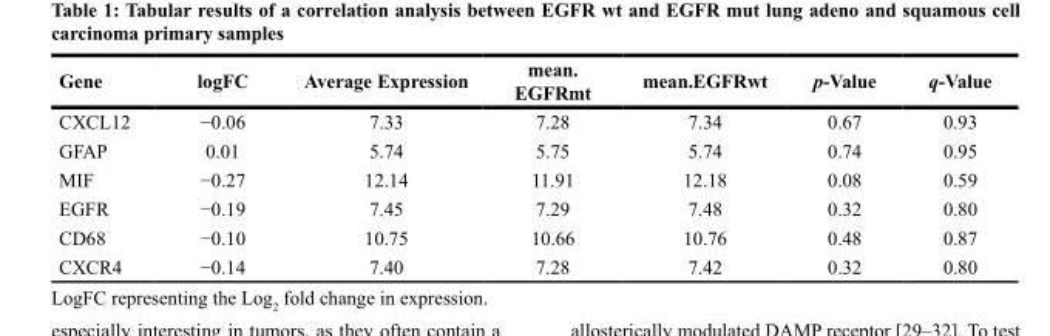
<table><thead><tr><td>Gene</td><td>logFC</td><td>Average Expression</td><td>mean. EGFRmt</td><td>mean.EGFRwt</td><td>p-Value</td><td>q-Value</td></tr></thead><tbody><tr><td>CXCL12</td><td>−0.06</td><td>7.33</td><td>7.28</td><td>7.34</td><td>0.67</td><td>0.93</td></tr><tr><td>GFAP</td><td>0.01</td><td>5.74</td><td>5.75</td><td>5.74</td><td>0.74</td><td>0.95</td></tr><tr><td>MIF</td><td>−0.27</td><td>12.14</td><td>11.91</td><td>12.18</td><td>0.08</td><td>0.59</td></tr><tr><td>EGFR</td><td>−0.19</td><td>7.45</td><td>7.29</td><td>7.48</td><td>0.32</td><td>0.80</td></tr><tr><td>CD68</td><td>−0.10</td><td>10.75</td><td>10.66</td><td>10.76</td><td>0.48</td><td>0.87</td></tr><tr><td>CXCR4</td><td>−0.14</td><td>7.40</td><td>7.28</td><td>7.42</td><td>0.32</td><td>0.80</td></tr></tbody></table>